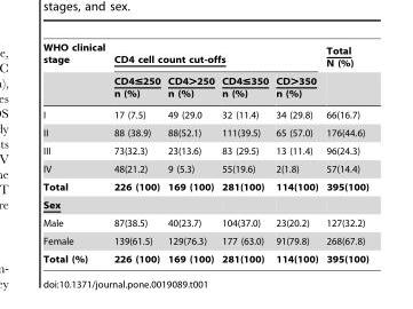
<table><thead><tr><td rowspan="2">WHO clinical stage</td><td colspan="4">CD4 cell count cut-offs</td><td rowspan="2">Total N (%)</td></tr><tr><td>CD4≤250 n (%)</td><td>CD4&gt;250 n (%)</td><td>CD4≤350 n (%)</td><td>CD&gt;350 n (%)</td></tr></thead><tbody><tr><td>I</td><td>17 (7.5)</td><td>49 (29.0</td><td>32 (11.4)</td><td>34 (29.8)</td><td>66(16.7)</td></tr><tr><td>II</td><td>88 (38.9)</td><td>88(52.1)</td><td>111(39.5)</td><td>65 (57.0)</td><td>176(44.6)</td></tr><tr><td>III</td><td>73(32.3)</td><td>23(13.6)</td><td>83 (29.5)</td><td>13 (11.4)</td><td>96(24.3)</td></tr><tr><td>IV</td><td>48(21.2)</td><td>9 (5.3)</td><td>55(19.6)</td><td>2(1.8)</td><td>57(14.4)</td></tr><tr><td>Total</td><td>226 (100)</td><td>169 (100)</td><td>281(100)</td><td>114(100)</td><td>395(100)</td></tr><tr><td colspan="6">Sex</td></tr><tr><td>Male</td><td>87(38.5)</td><td>40(23.7)</td><td>104(37.0)</td><td>23(20.2)</td><td>127(32.2)</td></tr><tr><td>Female</td><td>139(61.5)</td><td>129(76.3)</td><td>177 (63.0)</td><td>91(79.8)</td><td>268(67.8)</td></tr><tr><td>Total (%)</td><td>226 (100)</td><td>169 (100)</td><td>281(100)</td><td>114(100)</td><td>395(100)</td></tr></tbody></table>